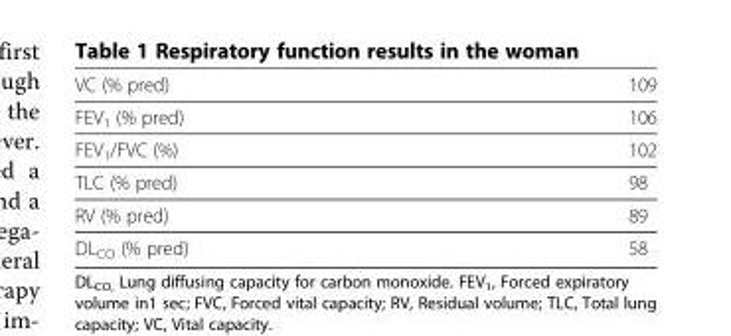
<table><tbody><tr><td>VC (% pred)</td><td>109</td></tr><tr><td>FEV<sub>1</sub> (% pred)</td><td>106</td></tr><tr><td>FEV<sub>1</sub>/FVC (%)</td><td>102</td></tr><tr><td>TLC (% pred)</td><td>98</td></tr><tr><td>RV (% pred)</td><td>89</td></tr><tr><td>DL<sub>CO</sub> (% pred)</td><td>58</td></tr></tbody></table>